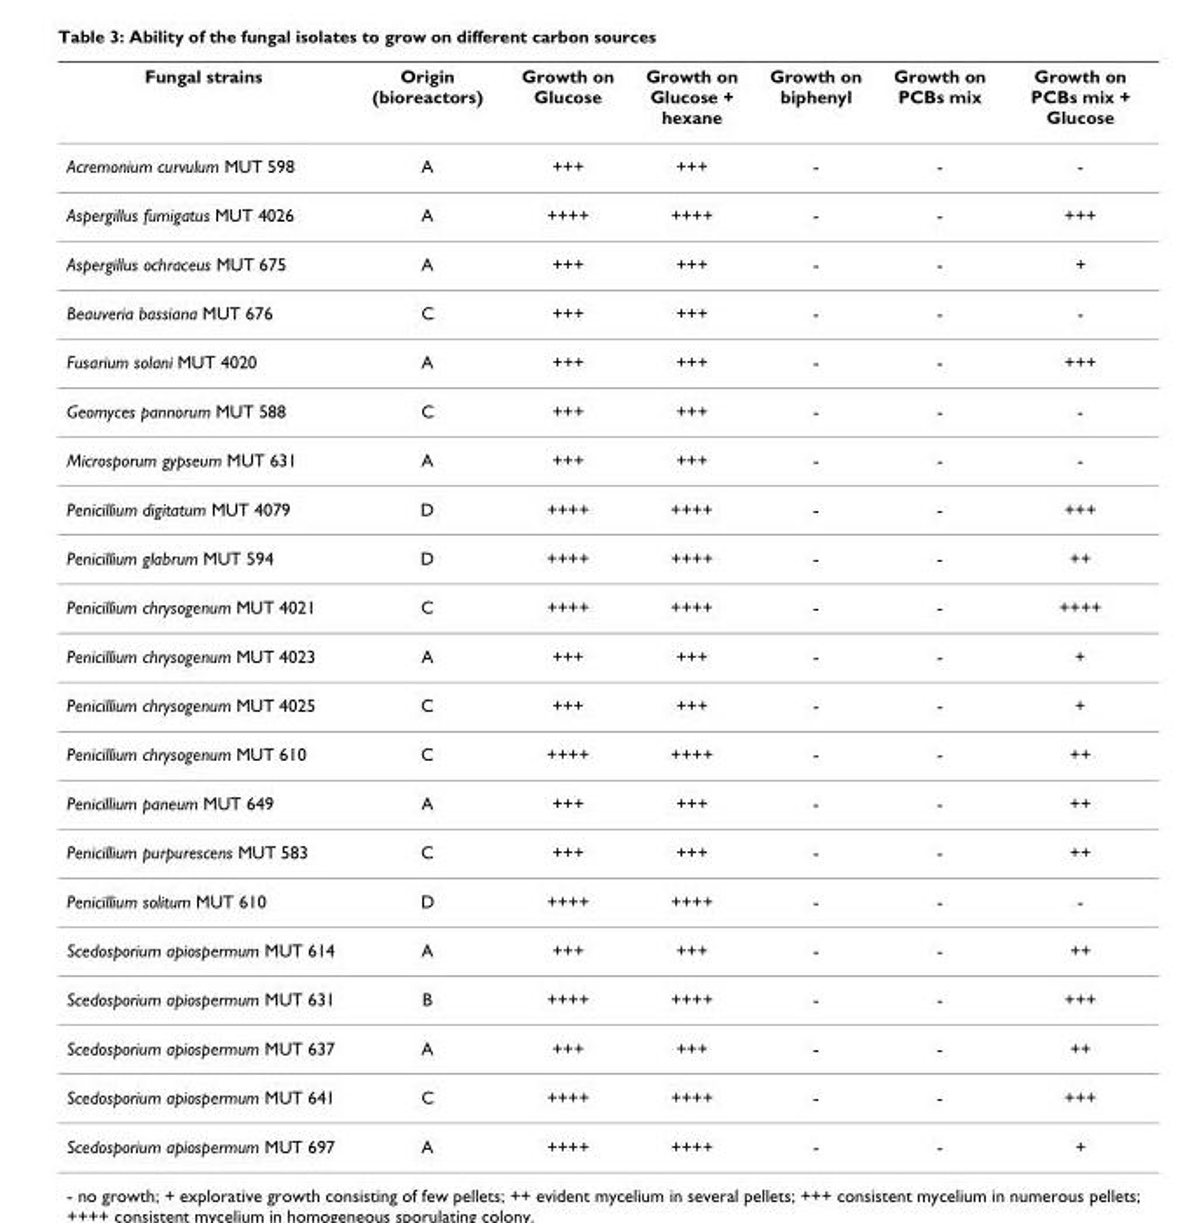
<table><thead><tr><td>Fungal strains</td><td>Origin (bioreactors)</td><td>Growth on Glucose</td><td>Growth on Glucose + hexane</td><td>Growth on biphenyl</td><td>Growth on PCBs mix</td><td>Growth on PCBs mix + Glucose</td></tr></thead><tbody><tr><td>Acremonium curvulum MUT 598</td><td>A</td><td>+++</td><td>+++</td><td>-</td><td>-</td><td>-</td></tr><tr><td>Aspergillus fumigatus MUT 4026</td><td>A</td><td>++++</td><td>++++</td><td>-</td><td>-</td><td>+++</td></tr><tr><td>Aspergillus ochraceus MUT 675</td><td>A</td><td>+++</td><td>+++</td><td>-</td><td>-</td><td>+</td></tr><tr><td>Beauveria bassiana MUT 676</td><td>C</td><td>+++</td><td>+++</td><td>-</td><td>-</td><td>-</td></tr><tr><td>Fusarium solani MUT 4020</td><td>A</td><td>+++</td><td>+++</td><td>-</td><td>-</td><td>+++</td></tr><tr><td>Geomyces pannorum MUT 588</td><td>C</td><td>+++</td><td>+++</td><td>-</td><td>-</td><td>-</td></tr><tr><td>Microsporum gypseum MUT 631</td><td>A</td><td>+++</td><td>+++</td><td>-</td><td>-</td><td>-</td></tr><tr><td>Penicillium digitatum MUT 4079</td><td>D</td><td>++++</td><td>++++</td><td>-</td><td>-</td><td>+++</td></tr><tr><td>Penicillium glabrum MUT 594</td><td>D</td><td>++++</td><td>++++</td><td>-</td><td>-</td><td>++</td></tr><tr><td>Penicillium chrysogenum MUT 4021</td><td>C</td><td>++++</td><td>++++</td><td>-</td><td>-</td><td>++++</td></tr><tr><td>Penicillium chrysogenum MUT 4023</td><td>A</td><td>+++</td><td>+++</td><td>-</td><td>-</td><td>+</td></tr><tr><td>Penicillium chrysogenum MUT 4025</td><td>C</td><td>+++</td><td>+++</td><td>-</td><td>-</td><td>+</td></tr><tr><td>Penicillium chrysogenum MUT 610</td><td>C</td><td>++++</td><td>++++</td><td>-</td><td>-</td><td>++</td></tr><tr><td>Penicillium paneum MUT 649</td><td>A</td><td>+++</td><td>+++</td><td>-</td><td>-</td><td>++</td></tr><tr><td>Penicillium purpurescens MUT 583</td><td>C</td><td>+++</td><td>+++</td><td>-</td><td>-</td><td>++</td></tr><tr><td>Penicillium solitum MUT 610</td><td>D</td><td>++++</td><td>++++</td><td>-</td><td>-</td><td>-</td></tr><tr><td>Scedosporium apiospermum MUT 614</td><td>A</td><td>+++</td><td>+++</td><td>-</td><td>-</td><td>++</td></tr><tr><td>Scedosporium apiospermum MUT 631</td><td>B</td><td>++++</td><td>++++</td><td>-</td><td>-</td><td>+++</td></tr><tr><td>Scedosporium apiospermum MUT 637</td><td>A</td><td>+++</td><td>+++</td><td>-</td><td>-</td><td>++</td></tr><tr><td>Scedosporium apiospermum MUT 641</td><td>C</td><td>++++</td><td>++++</td><td>-</td><td>-</td><td>+++</td></tr><tr><td>Scedosporium apiospermum MUT 697</td><td>A</td><td>++++</td><td>++++</td><td>-</td><td>-</td><td>+</td></tr></tbody></table>